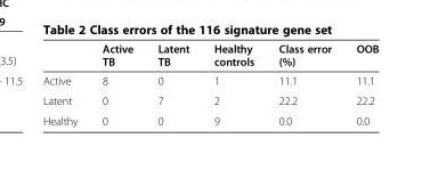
<table><thead><tr><td></td><td>Active TB</td><td>Latent TB</td><td>Healthy controls</td><td>Class error (%)</td><td>OOB</td></tr></thead><tbody><tr><td>Active</td><td>8</td><td>0</td><td>1</td><td>11.1</td><td>11.1</td></tr><tr><td>Latent</td><td>0</td><td>7</td><td>2</td><td>22.2</td><td>22.2</td></tr><tr><td>Healthy</td><td>0</td><td>0</td><td>9</td><td>0.0</td><td>0.0</td></tr></tbody></table>